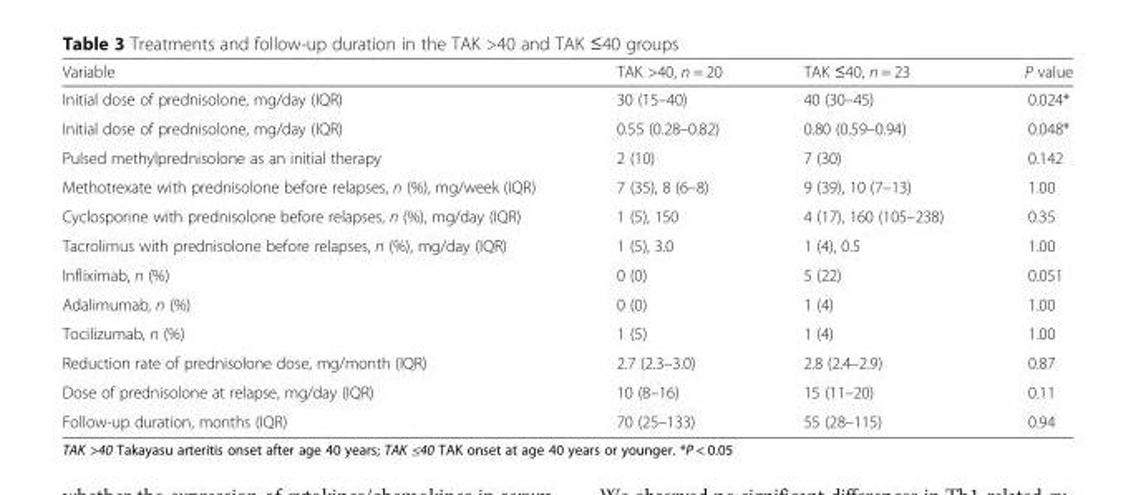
<table><thead><tr><td>Variable</td><td>TAK &gt;40, n = 20</td><td>TAK ≤40, n = 23</td><td>P value</td></tr></thead><tbody><tr><td>Initial dose of prednisolone, mg/day (IQR)</td><td>30 (15–40)</td><td>40 (30–45)</td><td>0.024*</td></tr><tr><td>Initial dose of prednisolone, mg/day (IQR)</td><td>0.55 (0.28–0.82)</td><td>0.80 (0.59–0.94)</td><td>0.048*</td></tr><tr><td>Pulsed methylprednisolone as an initial therapy</td><td>2 (10)</td><td>7 (30)</td><td>0.142</td></tr><tr><td>Methotrexate with prednisolone before relapses, n (%), mg/week (IQR)</td><td>7 (35), 8 (6–8)</td><td>9 (39), 10 (7–13)</td><td>1.00</td></tr><tr><td>Cyclosporine with prednisolone before relapses, n (%), mg/day (IQR)</td><td>1 (5), 150</td><td>4 (17), 160 (105–238)</td><td>0.35</td></tr><tr><td>Tacrolimus with prednisolone before relapses, n (%), mg/day (IQR)</td><td>1 (5), 3.0</td><td>1 (4), 0.5</td><td>1.00</td></tr><tr><td>Infliximab, n (%)</td><td>0 (0)</td><td>5 (22)</td><td>0.051</td></tr><tr><td>Adalimumab, n (%)</td><td>0 (0)</td><td>1 (4)</td><td>1.00</td></tr><tr><td>Tocilizumab, n (%)</td><td>1 (5)</td><td>1 (4)</td><td>1.00</td></tr><tr><td>Reduction rate of prednisolone dose, mg/month (IQR)</td><td>2.7 (2.3–3.0)</td><td>2.8 (2.4–2.9)</td><td>0.87</td></tr><tr><td>Dose of prednisolone at relapse, mg/day (IQR)</td><td>10 (8–16)</td><td>15 (11–20)</td><td>0.11</td></tr><tr><td>Follow-up duration, months (IQR)</td><td>70 (25–133)</td><td>55 (28–115)</td><td>0.94</td></tr></tbody></table>